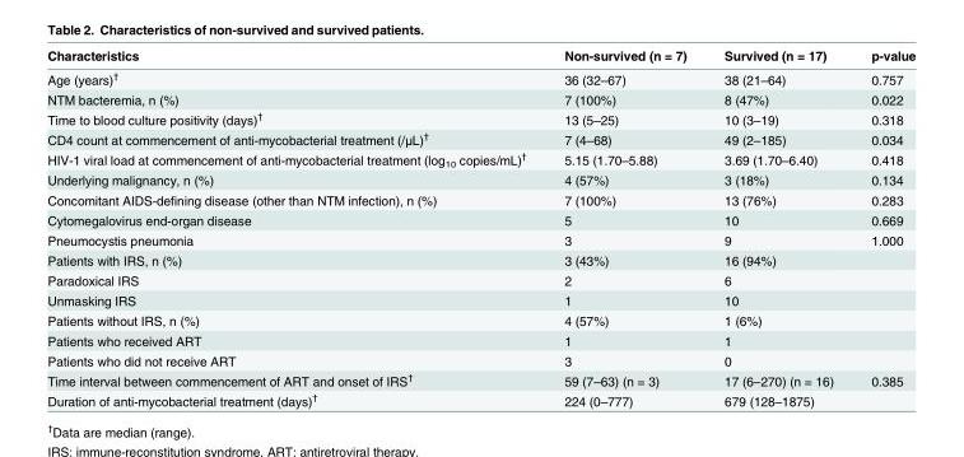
<table><thead><tr><td>Characteristics</td><td>Non-survived (n = 7)</td><td>Survived (n = 17)</td><td>p-value</td></tr></thead><tbody><tr><td>Age (years)<sup>†</sup></td><td>36 (32–67)</td><td>38 (21–64)</td><td>0.757</td></tr><tr><td>NTM bacteremia, n (%)</td><td>7 (100%)</td><td>8 (47%)</td><td>0.022</td></tr><tr><td>Time to blood culture positivity (days)<sup>†</sup></td><td>13 (5–25)</td><td>10 (3–19)</td><td>0.318</td></tr><tr><td>CD4 count at commencement of anti-mycobacterial treatment (/μL)<sup>†</sup></td><td>7 (4–68)</td><td>49 (2–185)</td><td>0.034</td></tr><tr><td>HIV-1 viral load at commencement of anti-mycobacterial treatment (log<sub>10</sub> copies/mL)<sup>†</sup></td><td>5.15 (1.70–5.88)</td><td>3.69 (1.70–6.40)</td><td>0.418</td></tr><tr><td>Underlying malignancy, n (%)</td><td>4 (57%)</td><td>3 (18%)</td><td>0.134</td></tr><tr><td>Concomitant AIDS-defining disease (other than NTM infection), n (%)</td><td>7 (100%)</td><td>13 (76%)</td><td>0.283</td></tr><tr><td>Cytomegalovirus end-organ disease</td><td>5</td><td>10</td><td>0.669</td></tr><tr><td>Pneumocystis pneumonia</td><td>3</td><td>9</td><td>1.000</td></tr><tr><td>Patients with IRS, n (%)</td><td>3 (43%)</td><td>16 (94%)</td><td></td></tr><tr><td>Paradoxical IRS</td><td>2</td><td>6</td><td></td></tr><tr><td>Unmasking IRS</td><td>1</td><td>10</td><td></td></tr><tr><td>Patients without IRS, n (%)</td><td>4 (57%)</td><td>1 (6%)</td><td></td></tr><tr><td>Patients who received ART</td><td>1</td><td>1</td><td></td></tr><tr><td>Patients who did not receive ART</td><td>3</td><td>0</td><td></td></tr><tr><td>Time interval between commencement of ART and onset of IRS<sup>†</sup></td><td>59 (7–63) (n = 3)</td><td>17 (6–270) (n = 16)</td><td>0.385</td></tr><tr><td>Duration of anti-mycobacterial treatment (days)<sup>†</sup></td><td>224 (0–777)</td><td>679 (128–1875)</td><td></td></tr></tbody></table>